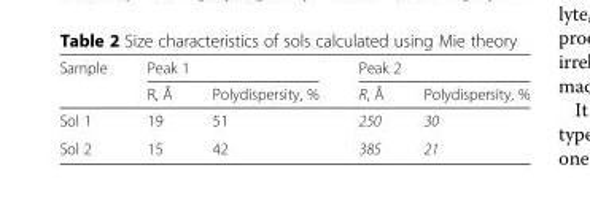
<table><thead><tr><td rowspan="2">Sample</td><td colspan="2">Peak 1</td><td colspan="2">Peak 2</td></tr><tr><td>R, Å</td><td>Polydispersity, %</td><td>R, Å</td><td>Polydispersity, %</td></tr></thead><tbody><tr><td>Sol 1</td><td>19</td><td>51</td><td>250</td><td>30</td></tr><tr><td>Sol 2</td><td>15</td><td>42</td><td>385</td><td>21</td></tr></tbody></table>